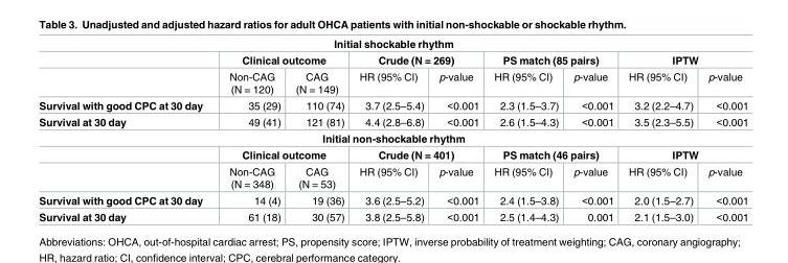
<table><tbody><tr><td colspan="9">Initial shockable rhythm</td></tr><tr><td></td><td colspan="2">Clinical outcome</td><td colspan="2">Crude (N = 269)</td><td colspan="2">PS match (85 pairs)</td><td colspan="2">IPTW</td></tr><tr><td></td><td>Non-CAG (N = 120)</td><td>CAG (N = 149)</td><td>HR (95% CI)</td><td>p-value</td><td>HR (95% CI)</td><td>p-value</td><td>HR (95% CI)</td><td>p-value</td></tr><tr><td>Survival with good CPC at 30 day</td><td>35 (29)</td><td>110 (74)</td><td>3.7 (2.5–5.4)</td><td>&lt;0.001</td><td>2.3 (1.5–3.7)</td><td>&lt;0.001</td><td>3.2 (2.2–4.7)</td><td>&lt;0.001</td></tr><tr><td>Survival at 30 day</td><td>49 (41)</td><td>121 (81)</td><td>4.4 (2.8–6.8)</td><td>&lt;0.001</td><td>2.6 (1.5–4.3)</td><td>&lt;0.001</td><td>3.5 (2.3–5.5)</td><td>&lt;0.001</td></tr><tr><td colspan="9">Initial non-shockable rhythm</td></tr><tr><td></td><td colspan="2">Clinical outcome</td><td colspan="2">Crude (N = 401)</td><td colspan="2">PS match (46 pairs)</td><td colspan="2">IPTW</td></tr><tr><td></td><td>Non-CAG (N = 348)</td><td>CAG (N = 53)</td><td>HR (95% CI)</td><td>p-value</td><td>HR (95% CI)</td><td>p-value</td><td>HR (95% CI)</td><td>p-value</td></tr><tr><td>Survival with good CPC at 30 day</td><td>14 (4)</td><td>19 (36)</td><td>3.6 (2.5–5.2)</td><td>&lt;0.001</td><td>2.4 (1.5–3.8)</td><td>&lt;0.001</td><td>2.0 (1.5–2.7)</td><td>&lt;0.001</td></tr><tr><td>Survival at 30 day</td><td>61 (18)</td><td>30 (57)</td><td>3.8 (2.5–5.8)</td><td>&lt;0.001</td><td>2.5 (1.4–4.3)</td><td>0.001</td><td>2.1 (1.5–3.0)</td><td>&lt;0.001</td></tr></tbody></table>